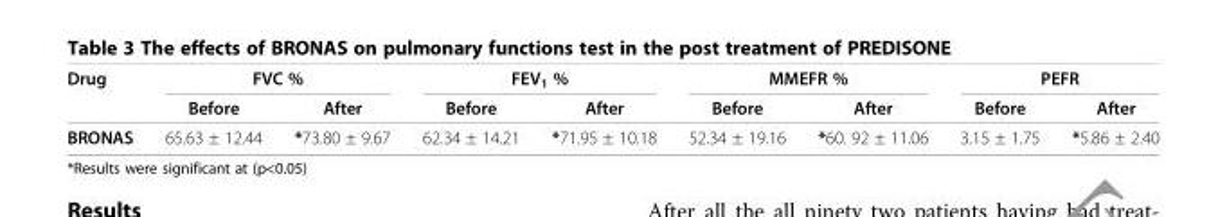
<table><thead><tr><td rowspan="2">Drug</td><td colspan="2">FVC %</td><td colspan="2">FEV1 %</td><td colspan="2">MMEFR %</td><td colspan="2">PEFR</td></tr><tr><td>Before</td><td>After</td><td>Before</td><td>After</td><td>Before</td><td>After</td><td>Before</td><td>After</td></tr></thead><tbody><tr><td>BRONAS</td><td>65.63 ± 12.44</td><td>*73.80 ± 9.67</td><td>62.34 ± 14.21</td><td>*71.95 ± 10.18</td><td>52.34 ± 19.16</td><td>*60. 92 ± 11.06</td><td>3.15 ± 1.75</td><td>*5.86 ± 2.40</td></tr></tbody></table>